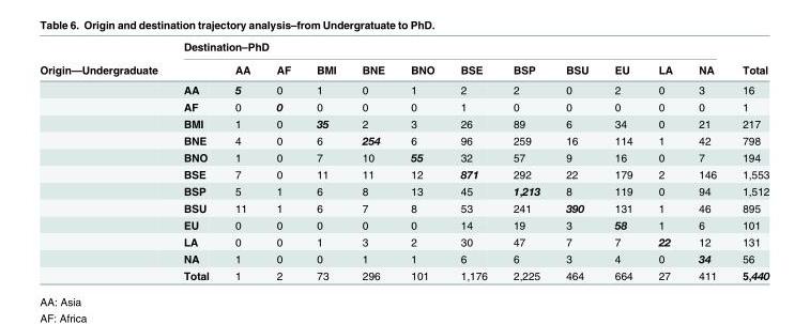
<table><thead><tr><td rowspan="2">Origin—Undergraduate</td><td colspan="12">Destination–PhD</td><td rowspan="2">Total</td></tr><tr><td></td><td>AA</td><td>AF</td><td>BMI</td><td>BNE</td><td>BNO</td><td>BSE</td><td>BSP</td><td>BSU</td><td>EU</td><td>LA</td><td>NA</td></tr></thead><tbody><tr><td></td><td>AA</td><td>5</td><td>0</td><td>1</td><td>0</td><td>1</td><td>2</td><td>2</td><td>0</td><td>2</td><td>0</td><td>3</td><td>16</td></tr><tr><td></td><td>AF</td><td>0</td><td>0</td><td>0</td><td>0</td><td>0</td><td>1</td><td>0</td><td>0</td><td>0</td><td>0</td><td>0</td><td>1</td></tr><tr><td></td><td>BMI</td><td>1</td><td>0</td><td>35</td><td>2</td><td>3</td><td>26</td><td>89</td><td>6</td><td>34</td><td>0</td><td>21</td><td>217</td></tr><tr><td></td><td>BNE</td><td>4</td><td>0</td><td>6</td><td>254</td><td>6</td><td>96</td><td>259</td><td>16</td><td>114</td><td>1</td><td>42</td><td>798</td></tr><tr><td></td><td>BNO</td><td>1</td><td>0</td><td>7</td><td>10</td><td>55</td><td>32</td><td>57</td><td>9</td><td>16</td><td>0</td><td>7</td><td>194</td></tr><tr><td></td><td>BSE</td><td>7</td><td>0</td><td>11</td><td>11</td><td>12</td><td>871</td><td>292</td><td>22</td><td>179</td><td>2</td><td>146</td><td>1,553</td></tr><tr><td></td><td>BSP</td><td>5</td><td>1</td><td>6</td><td>8</td><td>13</td><td>45</td><td>1,213</td><td>8</td><td>119</td><td>0</td><td>94</td><td>1,512</td></tr><tr><td></td><td>BSU</td><td>11</td><td>1</td><td>6</td><td>7</td><td>8</td><td>53</td><td>241</td><td>390</td><td>131</td><td>1</td><td>46</td><td>895</td></tr><tr><td></td><td>EU</td><td>0</td><td>0</td><td>0</td><td>0</td><td>0</td><td>14</td><td>19</td><td>3</td><td>58</td><td>1</td><td>6</td><td>101</td></tr><tr><td></td><td>LA</td><td>0</td><td>0</td><td>1</td><td>3</td><td>2</td><td>30</td><td>47</td><td>7</td><td>7</td><td>22</td><td>12</td><td>131</td></tr><tr><td></td><td>NA</td><td>1</td><td>0</td><td>0</td><td>1</td><td>1</td><td>6</td><td>6</td><td>3</td><td>4</td><td>0</td><td>34</td><td>56</td></tr><tr><td></td><td>Total</td><td>1</td><td>2</td><td>73</td><td>296</td><td>101</td><td>1,176</td><td>2,225</td><td>464</td><td>664</td><td>27</td><td>411</td><td>5,440</td></tr></tbody></table>